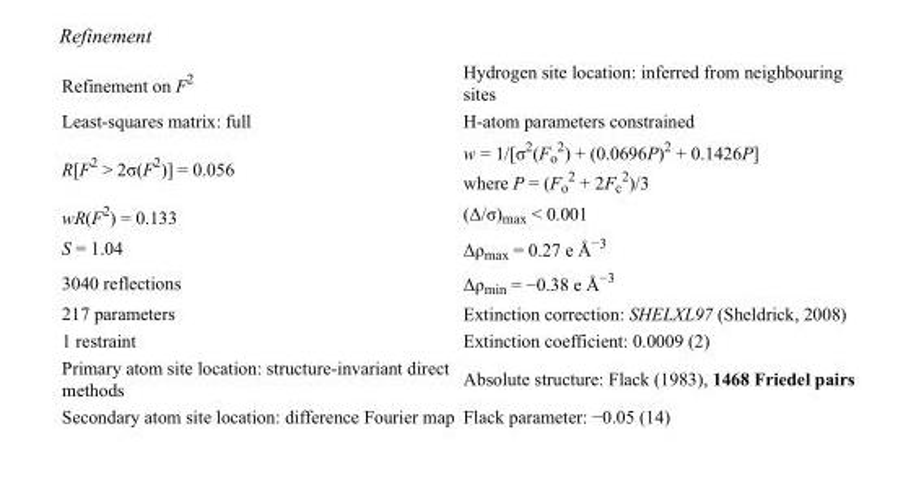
<table><tbody><tr><td>Refinement on F<sup>2</sup></td><td>Hydrogen site location: inferred from neighbouring sites</td></tr><tr><td>Least-squares matrix: full</td><td>H-atom parameters constrained</td></tr><tr><td>R[F<sup>2</sup> &gt; 2σ(F<sup>2</sup>)] = 0.056</td><td>w = 1/[σ<sup>2</sup>(F<sub>o</sub> <sup>2</sup>) + (0.0696P)<sup>2</sup> + 0.1426P] where P = (F<sub>o</sub> <sup>2</sup> + 2F<sub>c</sub> <sup>2</sup>)/3</td></tr><tr><td>wR(F<sup>2</sup>) = 0.133</td><td>(Δ/σ)<sub>max</sub> &lt; 0.001</td></tr><tr><td>S = 1.04</td><td>Δρ<sub>max</sub> = 0.27 e Å<sup>−3</sup></td></tr><tr><td>3040 reflections</td><td>Δρ<sub>min</sub> = −0.38 e Å<sup>−3</sup></td></tr><tr><td>217 parameters</td><td>Extinction correction: SHELXL97 (Sheldrick, 2008)</td></tr><tr><td>1 restraint</td><td>Extinction coefficient: 0.0009 (2)</td></tr><tr><td>Primary atom site location: structure-invariant direct methods</td><td>Absolute structure: Flack (1983), 1468 Friedel pairs</td></tr><tr><td>Secondary atom site location: difference Fourier map</td><td>Flack parameter: −0.05 (14)</td></tr></tbody></table>